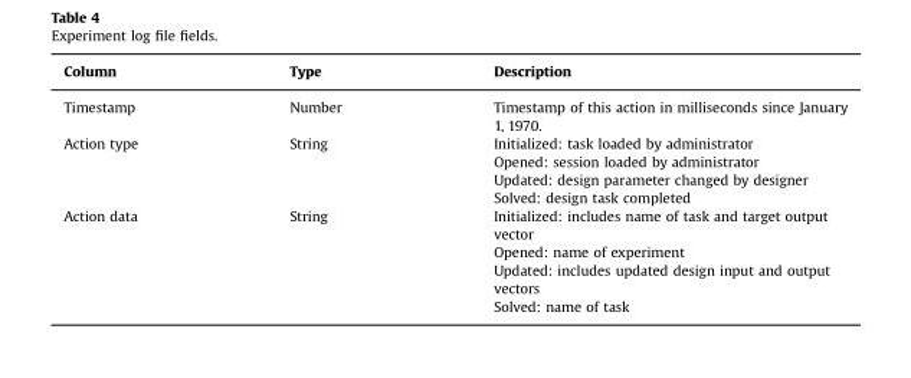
<table><thead><tr><td>Column</td><td>Type</td><td>Description</td></tr></thead><tbody><tr><td>Timestamp</td><td>Number</td><td>Timestamp of this action in milliseconds since January 1, 1970.</td></tr><tr><td rowspan="4">Action type</td><td rowspan="4">String</td><td>Initialized: task loaded by administrator</td></tr><tr><td>Opened: session loaded by administrator</td></tr><tr><td>Updated: design parameter changed by designer</td></tr><tr><td>Solved: design task completed</td></tr><tr><td rowspan="4">Action data</td><td rowspan="4">String</td><td>Initialized: includes name of task and target output vector</td></tr><tr><td>Opened: name of experiment</td></tr><tr><td>Updated: includes updated design input and output vectors</td></tr><tr><td>Solved: name of task</td></tr></tbody></table>